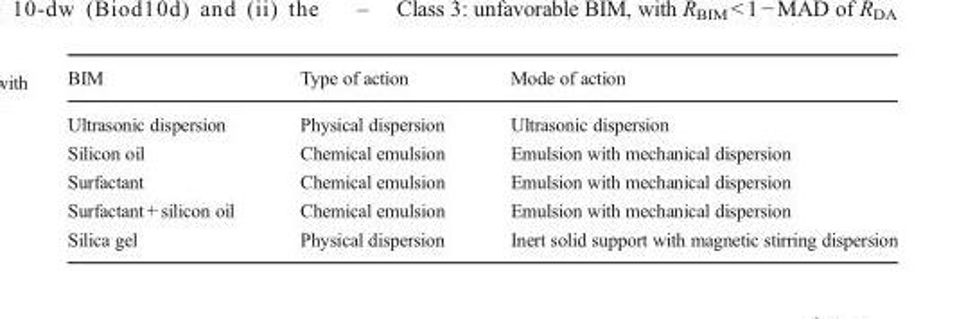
<table><thead><tr><td>BIM</td><td>Type of action</td><td>Mode of action</td></tr></thead><tbody><tr><td>Ultrasonic dispersion</td><td>Physical dispersion</td><td>Ultrasonic dispersion</td></tr><tr><td>Silicon oil</td><td>Chemical emulsion</td><td>Emulsion with mechanical dispersion</td></tr><tr><td>Surfactant</td><td>Chemical emulsion</td><td>Emulsion with mechanical dispersion</td></tr><tr><td>Surfactant + silicon oil</td><td>Chemical emulsion</td><td>Emulsion with mechanical dispersion</td></tr><tr><td>Silica gel</td><td>Physical dispersion</td><td>Inert solid support with magnetic stirring dispersion</td></tr></tbody></table>